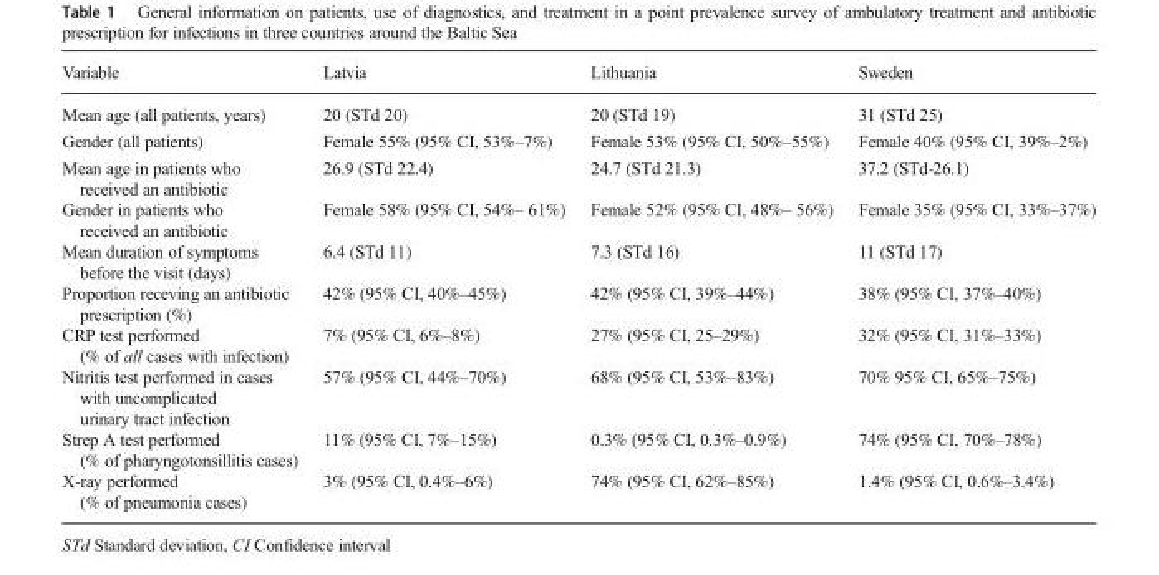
<table><thead><tr><td>Variable</td><td>Latvia</td><td>Lithuania</td><td>Sweden</td></tr></thead><tbody><tr><td>Mean age (all patients, years)</td><td>20 (STd 20)</td><td>20 (STd 19)</td><td>31 (STd 25)</td></tr><tr><td>Gender (all patients)</td><td>Female 55% (95% CI, 53%–7%)</td><td>Female 53% (95% CI, 50%–55%)</td><td>Female 40% (95% CI, 39%–2%)</td></tr><tr><td>Mean age in patients who received an antibiotic</td><td>26.9 (STd 22.4)</td><td>24.7 (STd 21.3)</td><td>37.2 (STd-26.1)</td></tr><tr><td>Gender in patients who received an antibiotic</td><td>Female 58% (95% CI, 54%– 61%)</td><td>Female 52% (95% CI, 48%– 56%)</td><td>Female 35% (95% CI, 33%–37%)</td></tr><tr><td>Mean duration of symptoms before the visit (days)</td><td>6.4 (STd 11)</td><td>7.3 (STd 16)</td><td>11 (STd 17)</td></tr><tr><td>Proportion receving an antibiotic prescription (%)</td><td>42% (95% CI, 40%–45%)</td><td>42% (95% CI, 39%–44%)</td><td>38% (95% CI, 37%–40%)</td></tr><tr><td>CRP test performed (% of all cases with infection)</td><td>7% (95% CI, 6%–8%)</td><td>27% (95% CI, 25–29%)</td><td>32% (95% CI, 31%–33%)</td></tr><tr><td>Nitritis test performed in cases with uncomplicated urinary tract infection</td><td>57% (95% CI, 44%–70%)</td><td>68% (95% CI, 53%–83%)</td><td>70% 95% CI, 65%–75%)</td></tr><tr><td>Strep A test performed (% of pharyngotonsillitis cases)</td><td>11% (95% CI, 7%–15%)</td><td>0.3% (95% CI, 0.3%–0.9%)</td><td>74% (95% CI, 70%–78%)</td></tr><tr><td>X-ray performed (% of pneumonia cases)</td><td>3% (95% CI, 0.4%–6%)</td><td>74% (95% CI, 62%–85%)</td><td>1.4% (95% CI, 0.6%–3.4%)</td></tr></tbody></table>